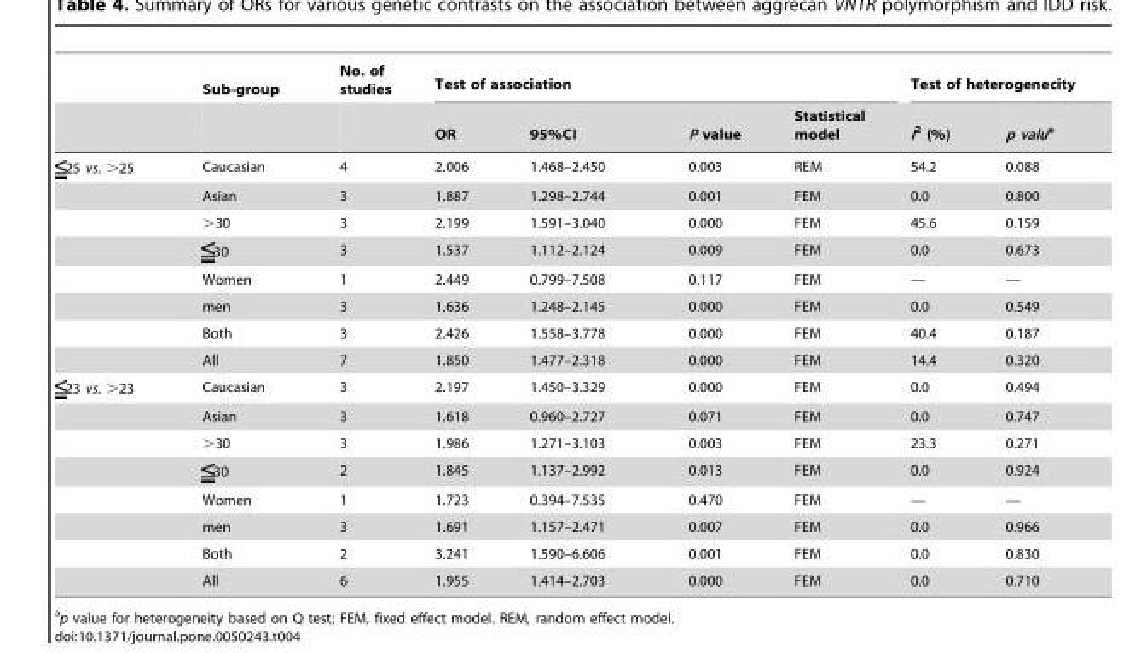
<table><thead><tr><td rowspan="2"></td><td rowspan="2">Sub-group</td><td rowspan="2">No. of studies</td><td colspan="4">Test of association</td><td colspan="2">Test of heterogenecity</td></tr><tr><td>OR</td><td>95%CI</td><td>P value</td><td>Statistical model</td><td>I<sup>2</sup> (%)</td><td>p valua</td></tr></thead><tbody><tr><td rowspan="8">25 vs. .25</td><td>Caucasian</td><td>4</td><td>2.006</td><td>1.468–2.450</td><td>0.003</td><td>REM</td><td>54.2</td><td>0.088</td></tr><tr><td>Asian</td><td>3</td><td>1.887</td><td>1.298–2.744</td><td>0.001</td><td>FEM</td><td>0.0</td><td>0.800</td></tr><tr><td>&gt;30</td><td>3</td><td>2.199</td><td>1.591–3.040</td><td>0.000</td><td>FEM</td><td>45.6</td><td>0.159</td></tr><tr><td>30</td><td>3</td><td>1.537</td><td>1.112–2.124</td><td>0.009</td><td>FEM</td><td>0.0</td><td>0.673</td></tr><tr><td>Women</td><td>1</td><td>2.449</td><td>0.799–7.508</td><td>0.117</td><td>FEM</td><td>—</td><td>—</td></tr><tr><td>men</td><td>3</td><td>1.636</td><td>1.248–2.145</td><td>0.000</td><td>FEM</td><td>0.0</td><td>0.549</td></tr><tr><td>Both</td><td>3</td><td>2.426</td><td>1.558–3.778</td><td>0.000</td><td>FEM</td><td>40.4</td><td>0.187</td></tr><tr><td>All</td><td>7</td><td>1.850</td><td>1.477–2.318</td><td>0.000</td><td>FEM</td><td>14.4</td><td>0.320</td></tr><tr><td rowspan="8">23 vs. .23</td><td>Caucasian</td><td>3</td><td>2.197</td><td>1.450–3.329</td><td>0.000</td><td>FEM</td><td>0.0</td><td>0.494</td></tr><tr><td>Asian</td><td>3</td><td>1.618</td><td>0.960–2.727</td><td>0.071</td><td>FEM</td><td>0.0</td><td>0.747</td></tr><tr><td>&gt;30</td><td>3</td><td>1.986</td><td>1.271–3.103</td><td>0.003</td><td>FEM</td><td>23.3</td><td>0.271</td></tr><tr><td>30</td><td>2</td><td>1.845</td><td>1.137–2.992</td><td>0.013</td><td>FEM</td><td>0.0</td><td>0.924</td></tr><tr><td>Women</td><td>1</td><td>1.723</td><td>0.394–7.535</td><td>0.470</td><td>FEM</td><td>—</td><td>—</td></tr><tr><td>men</td><td>3</td><td>1.691</td><td>1.157–2.471</td><td>0.007</td><td>FEM</td><td>0.0</td><td>0.966</td></tr><tr><td>Both</td><td>2</td><td>3.241</td><td>1.590–6.606</td><td>0.001</td><td>FEM</td><td>0.0</td><td>0.830</td></tr><tr><td>All</td><td>6</td><td>1.955</td><td>1.414–2.703</td><td>0.000</td><td>FEM</td><td>0.0</td><td>0.710</td></tr></tbody></table>